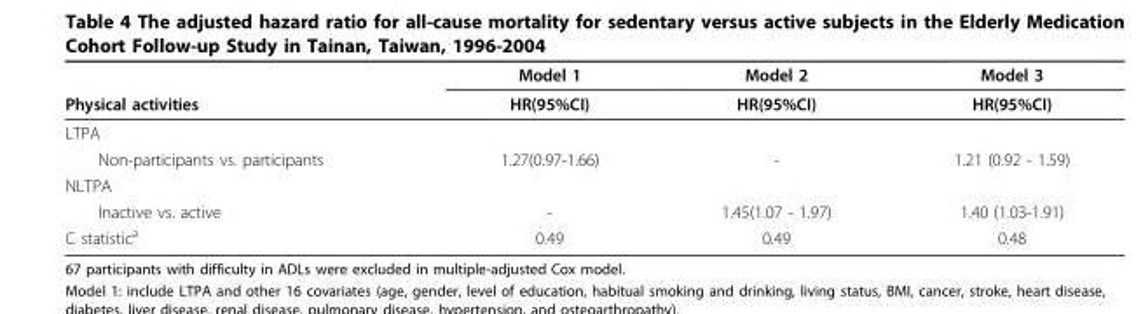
<table><thead><tr><td rowspan="2">Physical activities</td><td rowspan="2">Model 1 HR(95%CI)</td><td rowspan="2">Model 2 HR(95%CI)</td><td rowspan="2">Model 3 HR(95%CI)</td></tr><tr></tr></thead><tbody><tr><td colspan="4">LTPA</td></tr><tr><td>Non-participants vs. participants</td><td>1.27(0.97-1.66)</td><td>-</td><td>1.21 (0.92 - 1.59)</td></tr><tr><td colspan="4">NLTPA</td></tr><tr><td>Inactive vs. active</td><td>-</td><td>1.45(1.07 - 1.97)</td><td>1.40 (1.03-1.91)</td></tr><tr><td>C statistic<sup>a</sup></td><td>0.49</td><td>0.49</td><td>0.48</td></tr></tbody></table>